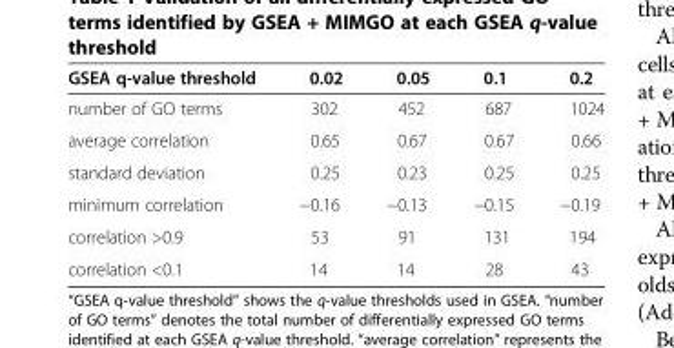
<table><thead><tr><td>GSEA q-value threshold</td><td>0.02</td><td>0.05</td><td>0.1</td><td>0.2</td></tr></thead><tbody><tr><td>number of GO terms</td><td>302</td><td>452</td><td>687</td><td>1024</td></tr><tr><td>average correlation</td><td>0.65</td><td>0.67</td><td>0.67</td><td>0.66</td></tr><tr><td>standard deviation</td><td>0.25</td><td>0.23</td><td>0.25</td><td>0.25</td></tr><tr><td>minimum correlation</td><td>−0.16</td><td>−0.13</td><td>−0.15</td><td>−0.19</td></tr><tr><td>correlation &gt;0.9</td><td>53</td><td>91</td><td>131</td><td>194</td></tr><tr><td>correlation &lt;0.1</td><td>14</td><td>14</td><td>28</td><td>43</td></tr></tbody></table>